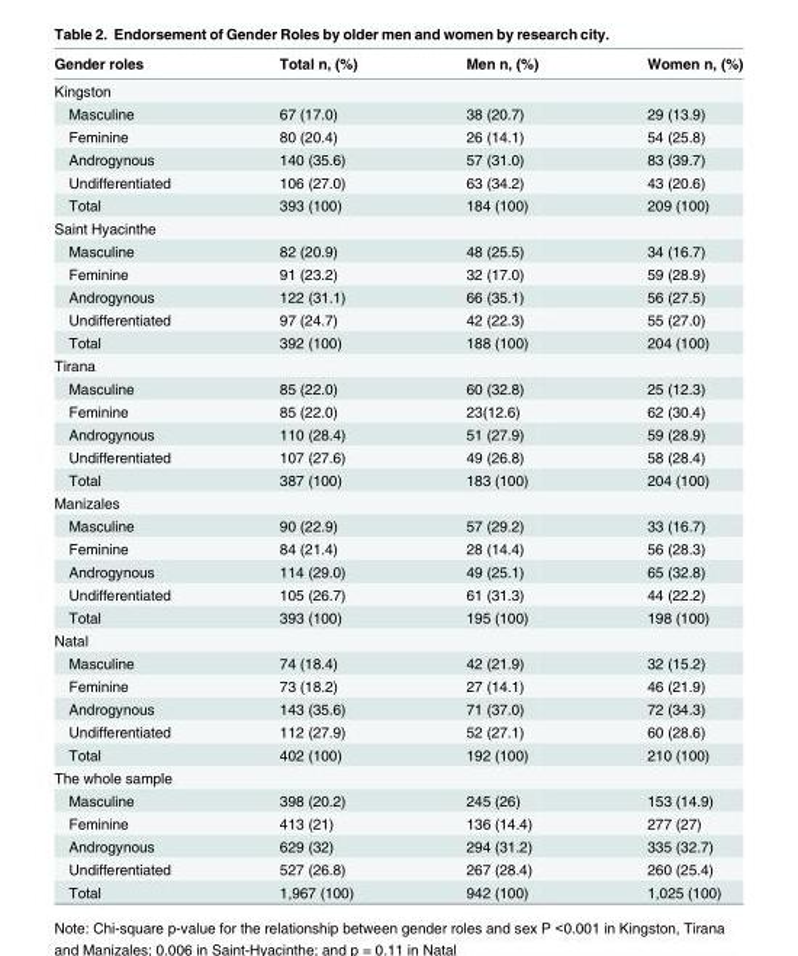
<table><thead><tr><td>Gender roles</td><td>Total n, (%)</td><td>Men n, (%)</td><td>Women n, (%)</td></tr></thead><tbody><tr><td colspan="4">Kingston</td></tr><tr><td>Masculine</td><td>67 (17.0)</td><td>38 (20.7)</td><td>29 (13.9)</td></tr><tr><td>Feminine</td><td>80 (20.4)</td><td>26 (14.1)</td><td>54 (25.8)</td></tr><tr><td>Androgynous</td><td>140 (35.6)</td><td>57 (31.0)</td><td>83 (39.7)</td></tr><tr><td>Undifferentiated</td><td>106 (27.0)</td><td>63 (34.2)</td><td>43 (20.6)</td></tr><tr><td>Total</td><td>393 (100)</td><td>184 (100)</td><td>209 (100)</td></tr><tr><td colspan="4">Saint Hyacinthe</td></tr><tr><td>Masculine</td><td>82 (20.9)</td><td>48 (25.5)</td><td>34 (16.7)</td></tr><tr><td>Feminine</td><td>91 (23.2)</td><td>32 (17.0)</td><td>59 (28.9)</td></tr><tr><td>Androgynous</td><td>122 (31.1)</td><td>66 (35.1)</td><td>56 (27.5)</td></tr><tr><td>Undifferentiated</td><td>97 (24.7)</td><td>42 (22.3)</td><td>55 (27.0)</td></tr><tr><td>Total</td><td>392 (100)</td><td>188 (100)</td><td>204 (100)</td></tr><tr><td colspan="4">Tirana</td></tr><tr><td>Masculine</td><td>85 (22.0)</td><td>60 (32.8)</td><td>25 (12.3)</td></tr><tr><td>Feminine</td><td>85 (22.0)</td><td>23(12.6)</td><td>62 (30.4)</td></tr><tr><td>Androgynous</td><td>110 (28.4)</td><td>51 (27.9)</td><td>59 (28.9)</td></tr><tr><td>Undifferentiated</td><td>107 (27.6)</td><td>49 (26.8)</td><td>58 (28.4)</td></tr><tr><td>Total</td><td>387 (100)</td><td>183 (100)</td><td>204 (100)</td></tr><tr><td colspan="4">Manizales</td></tr><tr><td>Masculine</td><td>90 (22.9)</td><td>57 (29.2)</td><td>33 (16.7)</td></tr><tr><td>Feminine</td><td>84 (21.4)</td><td>28 (14.4)</td><td>56 (28.3)</td></tr><tr><td>Androgynous</td><td>114 (29.0)</td><td>49 (25.1)</td><td>65 (32.8)</td></tr><tr><td>Undifferentiated</td><td>105 (26.7)</td><td>61 (31.3)</td><td>44 (22.2)</td></tr><tr><td>Total</td><td>393 (100)</td><td>195 (100)</td><td>198 (100)</td></tr><tr><td colspan="4">Natal</td></tr><tr><td>Masculine</td><td>74 (18.4)</td><td>42 (21.9)</td><td>32 (15.2)</td></tr><tr><td>Feminine</td><td>73 (18.2)</td><td>27 (14.1)</td><td>46 (21.9)</td></tr><tr><td>Androgynous</td><td>143 (35.6)</td><td>71 (37.0)</td><td>72 (34.3)</td></tr><tr><td>Undifferentiated</td><td>112 (27.9)</td><td>52 (27.1)</td><td>60 (28.6)</td></tr><tr><td>Total</td><td>402 (100)</td><td>192 (100)</td><td>210 (100)</td></tr><tr><td colspan="4">The whole sample</td></tr><tr><td>Masculine</td><td>398 (20.2)</td><td>245 (26)</td><td>153 (14.9)</td></tr><tr><td>Feminine</td><td>413 (21)</td><td>136 (14.4)</td><td>277 (27)</td></tr><tr><td>Androgynous</td><td>629 (32)</td><td>294 (31.2)</td><td>335 (32.7)</td></tr><tr><td>Undifferentiated</td><td>527 (26.8)</td><td>267 (28.4)</td><td>260 (25.4)</td></tr><tr><td>Total</td><td>1,967 (100)</td><td>942 (100)</td><td>1,025 (100)</td></tr></tbody></table>